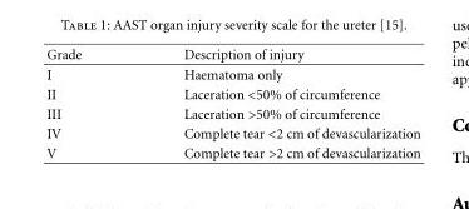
<table><thead><tr><td>Grade</td><td>Description of injury</td></tr></thead><tbody><tr><td>I</td><td>Haematoma only</td></tr><tr><td>II</td><td>Laceration &lt;50% of circumference</td></tr><tr><td>III</td><td>Laceration &gt;50% of circumference</td></tr><tr><td>IV</td><td>Complete tear &lt;2 cm of devascularization</td></tr><tr><td>V</td><td>Complete tear &gt;2 cm of devascularization</td></tr></tbody></table>